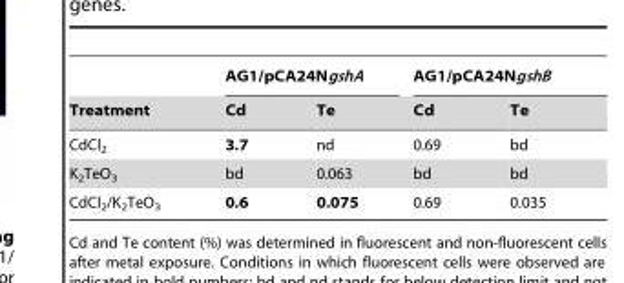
<table><thead><tr><td rowspan="2">Treatment</td><td colspan="2">AG1/pCA24NgshA</td><td colspan="2">AG1/pCA24NgshB</td></tr><tr><td>Cd</td><td>Te</td><td>Cd</td><td>Te</td></tr></thead><tbody><tr><td>CdCl<sub>2</sub></td><td>3.7</td><td>nd</td><td>0.69</td><td>bd</td></tr><tr><td>K<sub>2</sub>TeO<sub>3</sub></td><td>bd</td><td>0.063</td><td>bd</td><td>bd</td></tr><tr><td>CdCl<sub>2</sub>/K<sub>2</sub>TeO<sub>3</sub></td><td>0.6</td><td>0.075</td><td>0.69</td><td>0.035</td></tr></tbody></table>